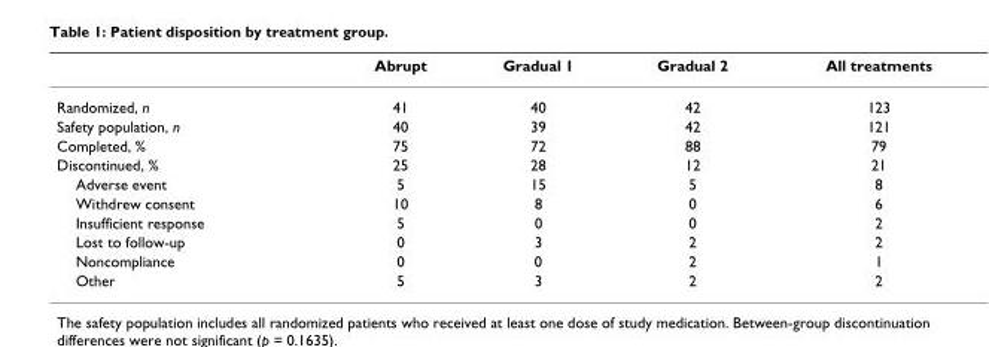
<table><thead><tr><td></td><td>Abrupt</td><td>Gradual 1</td><td>Gradual 2</td><td>All treatments</td></tr></thead><tbody><tr><td>Randomized, n</td><td>41</td><td>40</td><td>42</td><td>123</td></tr><tr><td>Safety population, n</td><td>40</td><td>39</td><td>42</td><td>121</td></tr><tr><td>Completed, %</td><td>75</td><td>72</td><td>88</td><td>79</td></tr><tr><td>Discontinued, %</td><td>25</td><td>28</td><td>12</td><td>21</td></tr><tr><td>Adverse event</td><td>5</td><td>15</td><td>5</td><td>8</td></tr><tr><td>Withdrew consent</td><td>10</td><td>8</td><td>0</td><td>6</td></tr><tr><td>Insufficient response</td><td>5</td><td>0</td><td>0</td><td>2</td></tr><tr><td>Lost to follow-up</td><td>0</td><td>3</td><td>2</td><td>2</td></tr><tr><td>Noncompliance</td><td>0</td><td>0</td><td>2</td><td>1</td></tr><tr><td>Other</td><td>5</td><td>3</td><td>2</td><td>2</td></tr></tbody></table>